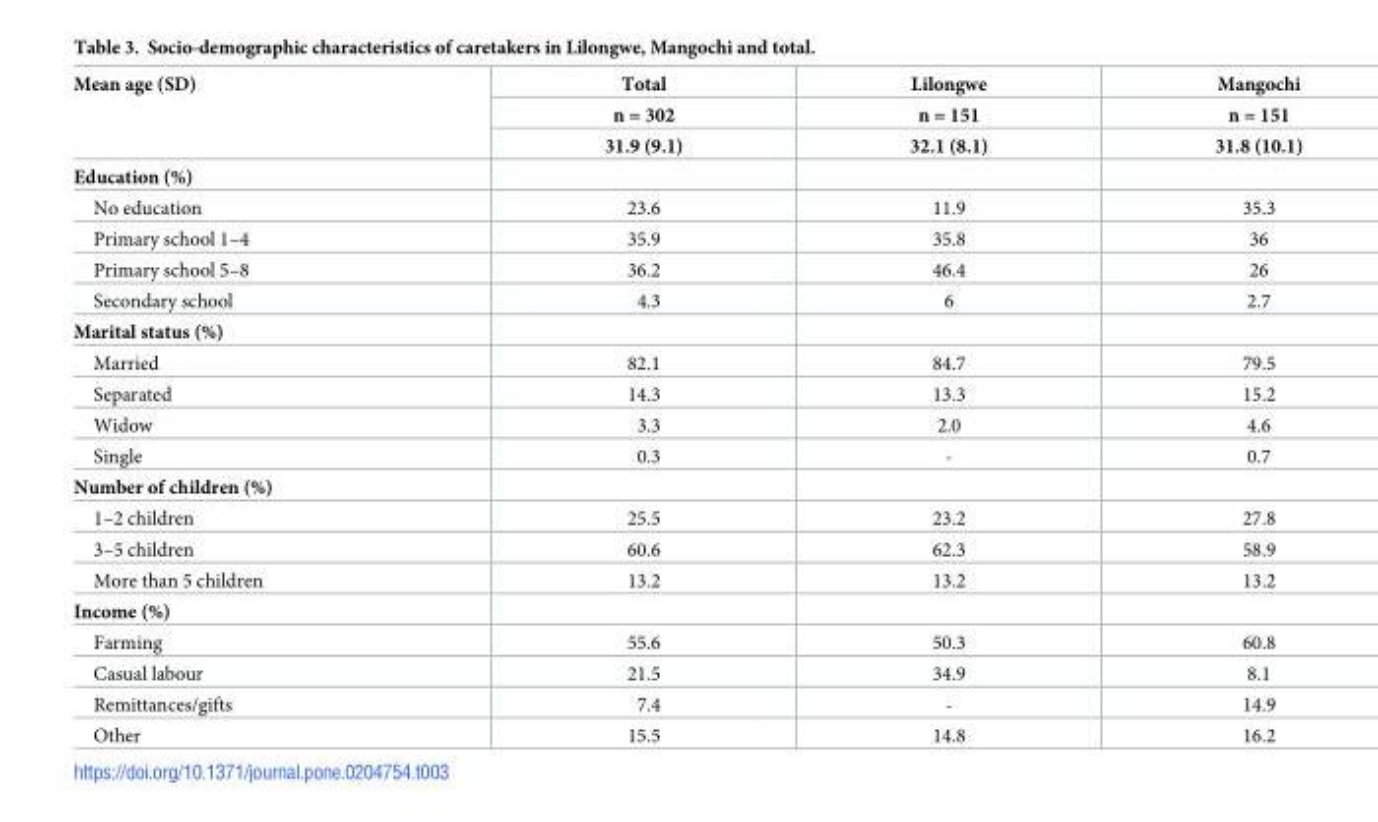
<table><thead><tr><td rowspan="3">Mean age (SD)</td><td rowspan="3">Total n = 302 31.9 (9.1)</td><td rowspan="3">Lilongwe n = 151 32.1 (8.1)</td><td rowspan="3">Mangochi n = 151 31.8 (10.1)</td></tr><tr></tr><tr></tr></thead><tbody><tr><td colspan="4">Education (%)</td></tr><tr><td>No education</td><td>23.6</td><td>11.9</td><td>35.3</td></tr><tr><td>Primary school 1–4</td><td>35.9</td><td>35.8</td><td>36</td></tr><tr><td>Primary school 5–8</td><td>36.2</td><td>46.4</td><td>26</td></tr><tr><td>Secondary school</td><td>4.3</td><td>6</td><td>2.7</td></tr><tr><td colspan="4">Marital status (%)</td></tr><tr><td>Married</td><td>82.1</td><td>84.7</td><td>79.5</td></tr><tr><td>Separated</td><td>14.3</td><td>13.3</td><td>15.2</td></tr><tr><td>Widow</td><td>3.3</td><td>2.0</td><td>4.6</td></tr><tr><td>Single</td><td>0.3</td><td>-</td><td>0.7</td></tr><tr><td colspan="4">Number of children (%)</td></tr><tr><td>1–2 children</td><td>25.5</td><td>23.2</td><td>27.8</td></tr><tr><td>3–5 children</td><td>60.6</td><td>62.3</td><td>58.9</td></tr><tr><td>More than 5 children</td><td>13.2</td><td>13.2</td><td>13.2</td></tr><tr><td colspan="4">Income (%)</td></tr><tr><td>Farming</td><td>55.6</td><td>50.3</td><td>60.8</td></tr><tr><td>Casual labour</td><td>21.5</td><td>34.9</td><td>8.1</td></tr><tr><td>Remittances/gifts</td><td>7.4</td><td>-</td><td>14.9</td></tr><tr><td>Other</td><td>15.5</td><td>14.8</td><td>16.2</td></tr></tbody></table>